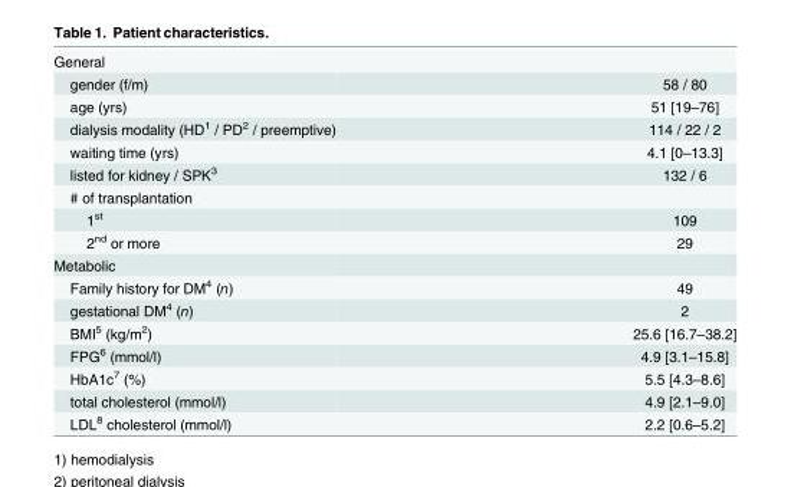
<table><tbody><tr><td colspan="2">General</td></tr><tr><td>gender (f/m)</td><td>58 / 80</td></tr><tr><td>age (yrs)</td><td>51 [19–76]</td></tr><tr><td>dialysis modality (HD<sup>1</sup> / PD<sup>2</sup> / preemptive)</td><td>114 / 22 / 2</td></tr><tr><td>waiting time (yrs)</td><td>4.1 [0–13.3]</td></tr><tr><td>listed for kidney / SPK<sup>3</sup></td><td>132 / 6</td></tr><tr><td colspan="2"># of transplantation</td></tr><tr><td>1<sup>st</sup></td><td>109</td></tr><tr><td>2<sup>nd</sup> or more</td><td>29</td></tr><tr><td colspan="2">Metabolic</td></tr><tr><td>Family history for DM<sup>4</sup> (n)</td><td>49</td></tr><tr><td>gestational DM<sup>4</sup> (n)</td><td>2</td></tr><tr><td>BMI<sup>5</sup> (kg/m<sup>2</sup>)</td><td>25.6 [16.7–38.2]</td></tr><tr><td>FPG<sup>6</sup> (mmol/l)</td><td>4.9 [3.1–15.8]</td></tr><tr><td>HbA1c<sup>7</sup> (%)</td><td>5.5 [4.3–8.6]</td></tr><tr><td>total cholesterol (mmol/l)</td><td>4.9 [2.1–9.0]</td></tr><tr><td>LDL<sup>8</sup> cholesterol (mmol/l)</td><td>2.2 [0.6–5.2]</td></tr></tbody></table>